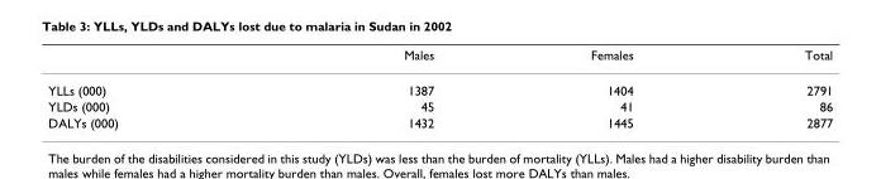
<table><thead><tr><td></td><td>Males</td><td>Females</td><td>Total</td></tr></thead><tbody><tr><td>YLLs (000)</td><td>1387</td><td>1404</td><td>2791</td></tr><tr><td>YLDs (000)</td><td>45</td><td>41</td><td>86</td></tr><tr><td>DALYs (000)</td><td>1432</td><td>1445</td><td>2877</td></tr></tbody></table>